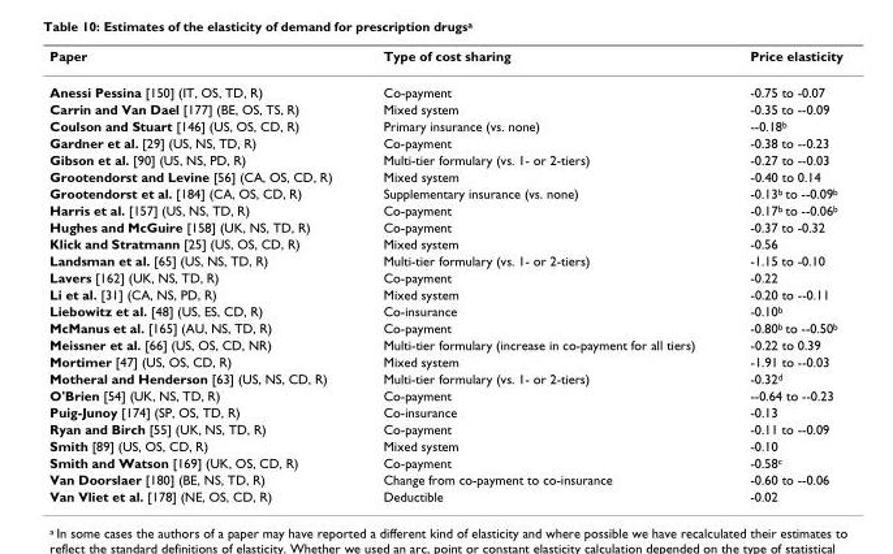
<table><thead><tr><td>Paper</td><td>Type of cost sharing</td><td>Price elasticity</td></tr></thead><tbody><tr><td>Anessi Pessina [150] (IT, OS, TD, R)</td><td>Co-payment</td><td>-0.75 to -0.07</td></tr><tr><td>Carrin and Van Dael [177] (BE, OS, TS, R)</td><td>Mixed system</td><td>-0.35 to --0.09</td></tr><tr><td>Coulson and Stuart [146] (US, OS, CD, R)</td><td>Primary insurance (vs. none)</td><td>--0.18<sup>b</sup></td></tr><tr><td>Gardner et al. [29] (US, NS, TD, R)</td><td>Co-payment</td><td>-0.38 to --0.23</td></tr><tr><td>Gibson et al. [90] (US, NS, PD, R)</td><td>Multi-tier formulary (vs. 1- or 2-tiers)</td><td>-0.27 to --0.03</td></tr><tr><td>Grootendorst and Levine [56] (CA, OS, CD, R)</td><td>Mixed system</td><td>-0.40 to 0.14</td></tr><tr><td>Grootendorst et al. [184] (CA, OS, CD, R)</td><td>Supplementary insurance (vs. none)</td><td>-0.13<sup>b</sup> to --0.09<sup>b</sup></td></tr><tr><td>Harris et al. [157] (US, NS, TD, R)</td><td>Co-payment</td><td>-0.17<sup>b</sup> to --0.06<sup>b</sup></td></tr><tr><td>Hughes and McGuire [158] (UK, NS, TD, R)</td><td>Co-payment</td><td>-0.37 to -0.32</td></tr><tr><td>Klick and Stratmann [25] (US, OS, CD, R)</td><td>Mixed system</td><td>-0.56</td></tr><tr><td>Landsman et al. [65] (US, NS, TD, R)</td><td>Multi-tier formulary (vs. 1- or 2-tiers)</td><td>-1.15 to -0.10</td></tr><tr><td>Lavers [162] (UK, NS, TD, R)</td><td>Co-payment</td><td>-0.22</td></tr><tr><td>Li et al. [31] (CA, NS, PD, R)</td><td>Mixed system</td><td>-0.20 to --0.11</td></tr><tr><td>Liebowitz et al. [48] (US, ES, CD, R)</td><td>Co-insurance</td><td>-0.10<sup>b</sup></td></tr><tr><td>McManus et al. [165] (AU, NS, TD, R)</td><td>Co-payment</td><td>-0.80<sup>b</sup> to --0.50<sup>b</sup></td></tr><tr><td>Meissner et al. [66] (US, OS, CD, NR)</td><td>Multi-tier formulary (increase in co-payment for all tiers)</td><td>-0.22 to 0.39</td></tr><tr><td>Mortimer [47] (US, OS, CD, R)</td><td>Mixed system</td><td>-1.91 to --0.03</td></tr><tr><td>Motheral and Henderson [63] (US, NS, CD, R)</td><td>Multi-tier formulary (vs. 1- or 2-tiers)</td><td>-0.32<sup>d</sup></td></tr><tr><td>O&#x27;Brien [54] (UK, NS, TD, R)</td><td>Co-payment</td><td>--0.64 to --0.23</td></tr><tr><td>Puig-Junoy [174] (SP, OS, TD, R)</td><td>Co-insurance</td><td>-0.13</td></tr><tr><td>Ryan and Birch [55] (UK, NS, TD, R)</td><td>Co-payment</td><td>-0.11 to --0.09</td></tr><tr><td>Smith [89] (US, OS, CD, R)</td><td>Mixed system</td><td>-0.10</td></tr><tr><td>Smith and Watson [169] (UK, OS, CD, R)</td><td>Co-payment</td><td>-0.58<sup>c</sup></td></tr><tr><td>Van Doorslaer [180] (BE, NS, TD, R)</td><td>Change from co-payment to co-insurance</td><td>-0.60 to --0.06</td></tr><tr><td>Van Vliet et al. [178] (NE, OS, CD, R)</td><td>Deductible</td><td>-0.02</td></tr></tbody></table>